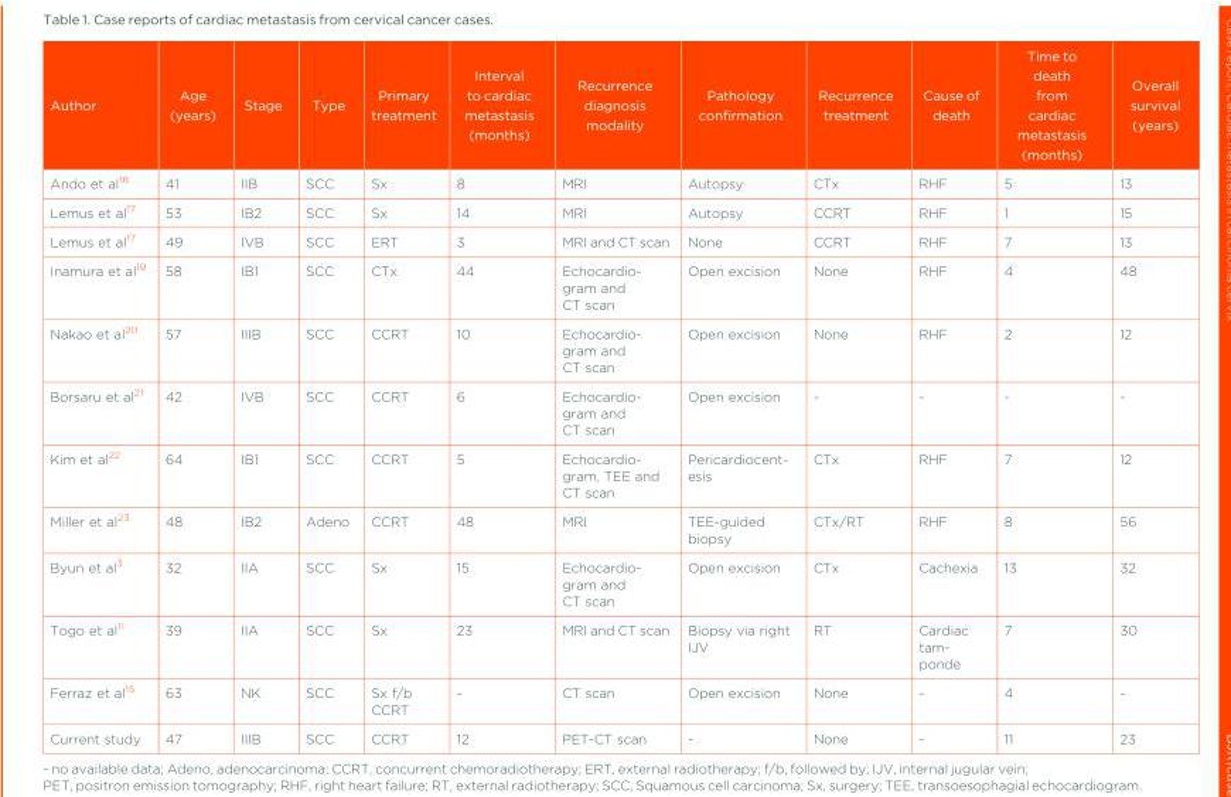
<table><thead><tr><td>Author</td><td>Age (years)</td><td>Stage</td><td>Type</td><td>Primary treatment</td><td>Interval to cardiac metastasis (months)</td><td>Recurrence diagnosis modality</td><td>Pathology confirmation</td><td>Recurrence treatment</td><td>Cause of death</td><td>Time to death from cardiac metastasis (months)</td><td>Overall survival (years)</td></tr></thead><tbody><tr><td>Ando et al<sup>18</sup></td><td>41</td><td>IIB</td><td>SCC</td><td>Sx</td><td>8</td><td>MRI</td><td>Autopsy</td><td>CTx</td><td>RHF</td><td>5</td><td>13</td></tr><tr><td>Lemus et al<sup>17</sup></td><td>53</td><td>IB2</td><td>SCC</td><td>Sx</td><td>14</td><td>MRI</td><td>Autopsy</td><td>CCRT</td><td>RHF</td><td>1</td><td>15</td></tr><tr><td>Lemus et al<sup>17</sup></td><td>49</td><td>IVB</td><td>SCC</td><td>ERT</td><td>3</td><td>MRI and CT scan</td><td>None</td><td>CCRT</td><td>RHF</td><td>7</td><td>13</td></tr><tr><td>Inamura et al<sup>19</sup></td><td>58</td><td>IB1</td><td>SCC</td><td>CTx</td><td>44</td><td>Echocardio- gram and CT scan</td><td>Open excision</td><td>None</td><td>RHF</td><td>4</td><td>48</td></tr><tr><td>Nakao et al<sup>20</sup></td><td>57</td><td>IIIB</td><td>SCC</td><td>CCRT</td><td>10</td><td>Echocardio- gram and CT scan</td><td>Open excision</td><td>None</td><td>RHF</td><td>2</td><td>12</td></tr><tr><td>Borsaru et al<sup>21</sup></td><td>42</td><td>IVB</td><td>SCC</td><td>CCRT</td><td>6</td><td>Echocardio- gram and CT scan</td><td>Open excision</td><td>-</td><td>-</td><td>-</td><td>-</td></tr><tr><td>Kim et al<sup>22</sup></td><td>64</td><td>IB1</td><td>SCC</td><td>CCRT</td><td>5</td><td>Echocardio- gram, TEE and CT scan</td><td>Pericardiocent- esis</td><td>CTx</td><td>RHF</td><td>7</td><td>12</td></tr><tr><td>Miller et al<sup>23</sup></td><td>48</td><td>IB2</td><td>Adeno</td><td>CCRT</td><td>48</td><td>MRI</td><td>TEE-guided biopsy</td><td>CTx/RT</td><td>RHF</td><td>8</td><td>56</td></tr><tr><td>Byun et al<sup>3</sup></td><td>32</td><td>IIA</td><td>SCC</td><td>Sx</td><td>15</td><td>Echocardio- gram and CT scan</td><td>Open excision</td><td>CTx</td><td>Cachexia</td><td>13</td><td>32</td></tr><tr><td>Togo et al<sup>11</sup></td><td>39</td><td>IIA</td><td>SCC</td><td>Sx</td><td>23</td><td>MRI and CT scan</td><td>Biopsy via right IJV</td><td>RT</td><td>Cardiac tam- ponde</td><td>7</td><td>30</td></tr><tr><td>Ferraz et al<sup>15</sup></td><td>63</td><td>NK</td><td>SCC</td><td>Sx f/b CCRT</td><td>-</td><td>CT scan</td><td>Open excision</td><td>None</td><td>-</td><td>4</td><td>-</td></tr><tr><td>Current study</td><td>47</td><td>IIIB</td><td>SCC</td><td>CCRT</td><td>12</td><td>PET-CT scan</td><td>-</td><td>None</td><td>-</td><td>11</td><td>23</td></tr></tbody></table>